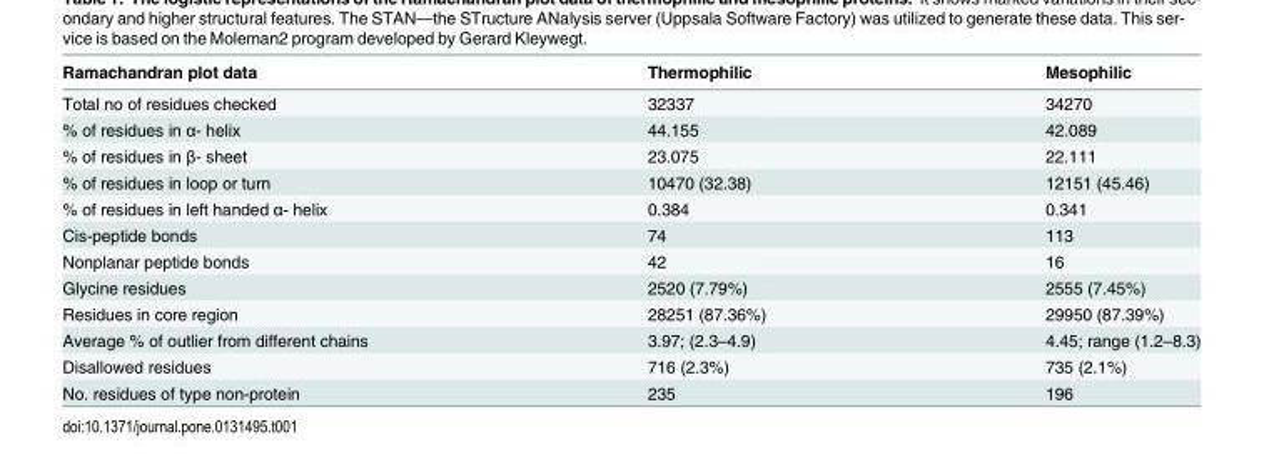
<table><thead><tr><td>Ramachandran plot data</td><td>Thermophilic</td><td>Mesophilic</td></tr></thead><tbody><tr><td>Total no of residues checked</td><td>32337</td><td>34270</td></tr><tr><td>% of residues in α- helix</td><td>44.155</td><td>42.089</td></tr><tr><td>% of residues in β- sheet</td><td>23.075</td><td>22.111</td></tr><tr><td>% of residues in loop or turn</td><td>10470 (32.38)</td><td>12151 (45.46)</td></tr><tr><td>% of residues in left handed α- helix</td><td>0.384</td><td>0.341</td></tr><tr><td>Cis-peptide bonds</td><td>74</td><td>113</td></tr><tr><td>Nonplanar peptide bonds</td><td>42</td><td>16</td></tr><tr><td>Glycine residues</td><td>2520 (7.79%)</td><td>2555 (7.45%)</td></tr><tr><td>Residues in core region</td><td>28251 (87.36%)</td><td>29950 (87.39%)</td></tr><tr><td>Average % of outlier from different chains</td><td>3.97; (2.3–4.9)</td><td>4.45; range (1.2–8.3)</td></tr><tr><td>Disallowed residues</td><td>716 (2.3%)</td><td>735 (2.1%)</td></tr><tr><td>No. residues of type non-protein</td><td>235</td><td>196</td></tr></tbody></table>